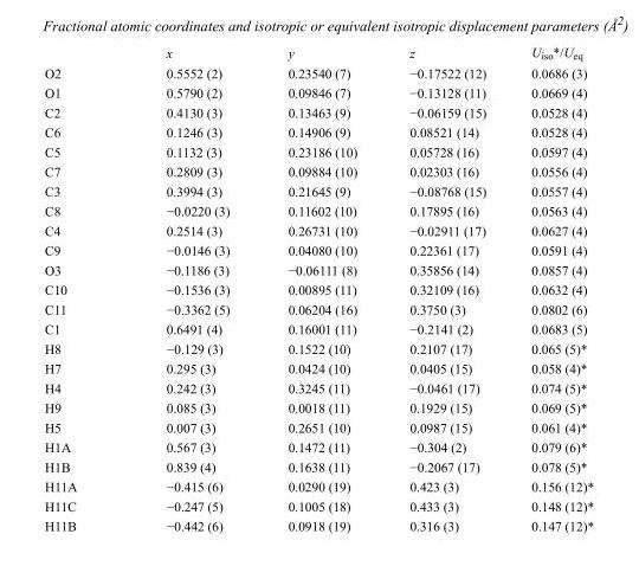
<table><thead><tr><td></td><td>x</td><td>y</td><td>z</td><td>U<sub>iso</sub>*/U<sub>eq</sub></td></tr></thead><tbody><tr><td>O2</td><td>0.5552 (2)</td><td>0.23540 (7)</td><td>−0.17522 (12)</td><td>0.0686 (3)</td></tr><tr><td>O1</td><td>0.5790 (2)</td><td>0.09846 (7)</td><td>−0.13128 (11)</td><td>0.0669 (4)</td></tr><tr><td>C2</td><td>0.4130 (3)</td><td>0.13463 (9)</td><td>−0.06159 (15)</td><td>0.0528 (4)</td></tr><tr><td>C6</td><td>0.1246 (3)</td><td>0.14906 (9)</td><td>0.08521 (14)</td><td>0.0528 (4)</td></tr><tr><td>C5</td><td>0.1132 (3)</td><td>0.23186 (10)</td><td>0.05728 (16)</td><td>0.0597 (4)</td></tr><tr><td>C7</td><td>0.2809 (3)</td><td>0.09884 (10)</td><td>0.02303 (16)</td><td>0.0556 (4)</td></tr><tr><td>C3</td><td>0.3994 (3)</td><td>0.21645 (9)</td><td>−0.08768 (15)</td><td>0.0557 (4)</td></tr><tr><td>C8</td><td>−0.0220 (3)</td><td>0.11602 (10)</td><td>0.17895 (16)</td><td>0.0563 (4)</td></tr><tr><td>C4</td><td>0.2514 (3)</td><td>0.26731 (10)</td><td>−0.02911 (17)</td><td>0.0627 (4)</td></tr><tr><td>C9</td><td>−0.0146 (3)</td><td>0.04080 (10)</td><td>0.22361 (17)</td><td>0.0591 (4)</td></tr><tr><td>O3</td><td>−0.1186 (3)</td><td>−0.06111 (8)</td><td>0.35856 (14)</td><td>0.0857 (4)</td></tr><tr><td>C10</td><td>−0.1536 (3)</td><td>0.00895 (11)</td><td>0.32109 (16)</td><td>0.0632 (4)</td></tr><tr><td>C11</td><td>−0.3362 (5)</td><td>0.06204 (16)</td><td>0.3750 (3)</td><td>0.0802 (6)</td></tr><tr><td>C1</td><td>0.6491 (4)</td><td>0.16001 (11)</td><td>−0.2141 (2)</td><td>0.0683 (5)</td></tr><tr><td>H8</td><td>−0.129 (3)</td><td>0.1522 (10)</td><td>0.2107 (17)</td><td>0.065 (5)*</td></tr><tr><td>H7</td><td>0.295 (3)</td><td>0.0424 (10)</td><td>0.0405 (15)</td><td>0.058 (4)*</td></tr><tr><td>H4</td><td>0.242 (3)</td><td>0.3245 (11)</td><td>−0.0461 (17)</td><td>0.074 (5)*</td></tr><tr><td>H9</td><td>0.085 (3)</td><td>0.0018 (11)</td><td>0.1929 (15)</td><td>0.069 (5)*</td></tr><tr><td>H5</td><td>0.007 (3)</td><td>0.2651 (10)</td><td>0.0987 (15)</td><td>0.061 (4)*</td></tr><tr><td>H1A</td><td>0.567 (3)</td><td>0.1472 (11)</td><td>−0.304 (2)</td><td>0.079 (6)*</td></tr><tr><td>H1B</td><td>0.839 (4)</td><td>0.1638 (11)</td><td>−0.2067 (17)</td><td>0.078 (5)*</td></tr><tr><td>H11A</td><td>−0.415 (6)</td><td>0.0290 (19)</td><td>0.423 (3)</td><td>0.156 (12)*</td></tr><tr><td>H11C</td><td>−0.247 (5)</td><td>0.1005 (18)</td><td>0.433 (3)</td><td>0.148 (12)*</td></tr><tr><td>H11B</td><td>−0.442 (6)</td><td>0.0918 (19)</td><td>0.316 (3)</td><td>0.147 (12)*</td></tr></tbody></table>